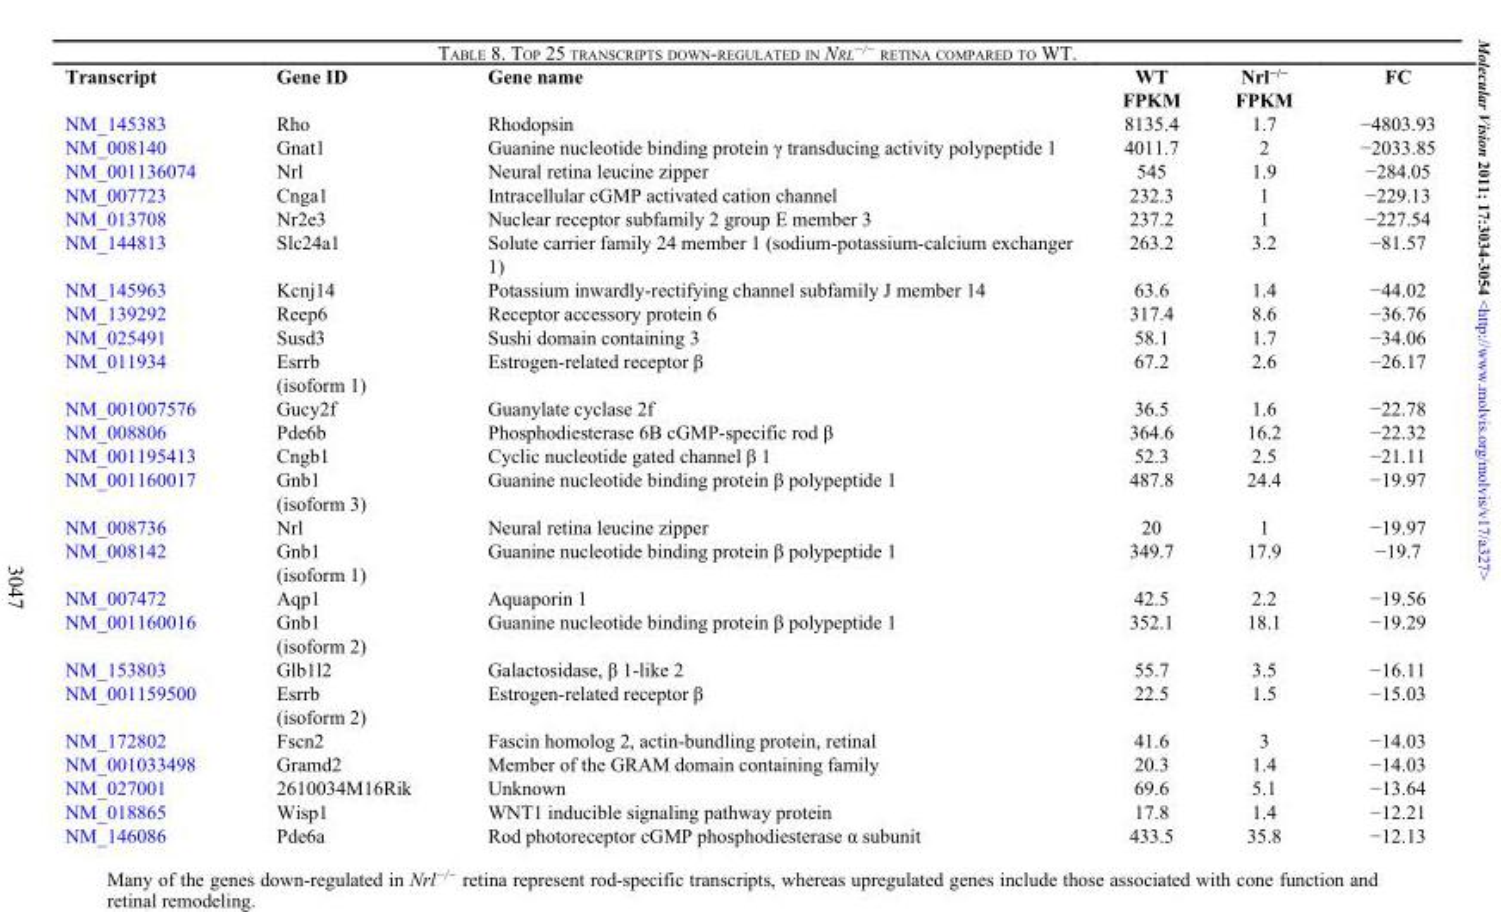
<table><thead><tr><td>Transcript</td><td>Gene ID</td><td>Gene name</td><td>WT FPKM</td><td>Nrl<sup>−/−</sup> FPKM</td><td>FC</td></tr></thead><tbody><tr><td>NM_145383</td><td>Rho</td><td>Rhodopsin</td><td>8135.4</td><td>1.7</td><td>−4803.93</td></tr><tr><td>NM_008140</td><td>Gnat1</td><td>Guanine nucleotide binding protein γ transducing activity polypeptide 1</td><td>4011.7</td><td>2</td><td>−2033.85</td></tr><tr><td>NM_001136074</td><td>Nrl</td><td>Neural retina leucine zipper</td><td>545</td><td>1.9</td><td>−284.05</td></tr><tr><td>NM_007723</td><td>Cnga1</td><td>Intracellular cGMP activated cation channel</td><td>232.3</td><td>1</td><td>−229.13</td></tr><tr><td>NM_013708</td><td>Nr2e3</td><td>Nuclear receptor subfamily 2 group E member 3</td><td>237.2</td><td>1</td><td>−227.54</td></tr><tr><td>NM_144813</td><td>Slc24a1</td><td>Solute carrier family 24 member 1 (sodium-potassium-calcium exchanger 1)</td><td>263.2</td><td>3.2</td><td>−81.57</td></tr><tr><td>NM_145963</td><td>Kcnj14</td><td>Potassium inwardly-rectifying channel subfamily J member 14</td><td>63.6</td><td>1.4</td><td>−44.02</td></tr><tr><td>NM_139292</td><td>Reep6</td><td>Receptor accessory protein 6</td><td>317.4</td><td>8.6</td><td>−36.76</td></tr><tr><td>NM_025491</td><td>Susd3</td><td>Sushi domain containing 3</td><td>58.1</td><td>1.7</td><td>−34.06</td></tr><tr><td>NM_011934</td><td>Esrrb (isoform 1)</td><td>Estrogen-related receptor β</td><td>67.2</td><td>2.6</td><td>−26.17</td></tr><tr><td>NM_001007576</td><td>Gucy2f</td><td>Guanylate cyclase 2f</td><td>36.5</td><td>1.6</td><td>−22.78</td></tr><tr><td>NM_008806</td><td>Pde6b</td><td>Phosphodiesterase 6B cGMP-specific rod β</td><td>364.6</td><td>16.2</td><td>−22.32</td></tr><tr><td>NM_001195413</td><td>Cngb1</td><td>Cyclic nucleotide gated channel β 1</td><td>52.3</td><td>2.5</td><td>−21.11</td></tr><tr><td>NM_001160017</td><td>Gnb1 (isoform 3)</td><td>Guanine nucleotide binding protein β polypeptide 1</td><td>487.8</td><td>24.4</td><td>−19.97</td></tr><tr><td>NM_008736</td><td>Nrl</td><td>Neural retina leucine zipper</td><td>20</td><td>1</td><td>−19.97</td></tr><tr><td>NM_008142</td><td>Gnb1 (isoform 1)</td><td>Guanine nucleotide binding protein β polypeptide 1</td><td>349.7</td><td>17.9</td><td>−19.7</td></tr><tr><td>NM_007472</td><td>Aqp1</td><td>Aquaporin 1</td><td>42.5</td><td>2.2</td><td>−19.56</td></tr><tr><td>NM_001160016</td><td>Gnb1 (isoform 2)</td><td>Guanine nucleotide binding protein β polypeptide 1</td><td>352.1</td><td>18.1</td><td>−19.29</td></tr><tr><td>NM_153803</td><td>Glb1l2</td><td>Galactosidase, β 1-like 2</td><td>55.7</td><td>3.5</td><td>−16.11</td></tr><tr><td>NM_001159500</td><td>Esrrb (isoform 2)</td><td>Estrogen-related receptor β</td><td>22.5</td><td>1.5</td><td>−15.03</td></tr><tr><td>NM_172802</td><td>Fscn2</td><td>Fascin homolog 2, actin-bundling protein, retinal</td><td>41.6</td><td>3</td><td>−14.03</td></tr><tr><td>NM_001033498</td><td>Gramd2</td><td>Member of the GRAM domain containing family</td><td>20.3</td><td>1.4</td><td>−14.03</td></tr><tr><td>NM_027001</td><td>2610034M16Rik</td><td>Unknown</td><td>69.6</td><td>5.1</td><td>−13.64</td></tr><tr><td>NM_018865</td><td>Wisp1</td><td>WNT1 inducible signaling pathway protein</td><td>17.8</td><td>1.4</td><td>−12.21</td></tr><tr><td>NM_146086</td><td>Pde6a</td><td>Rod photoreceptor cGMP phosphodiesterase α subunit</td><td>433.5</td><td>35.8</td><td>−12.13</td></tr></tbody></table>